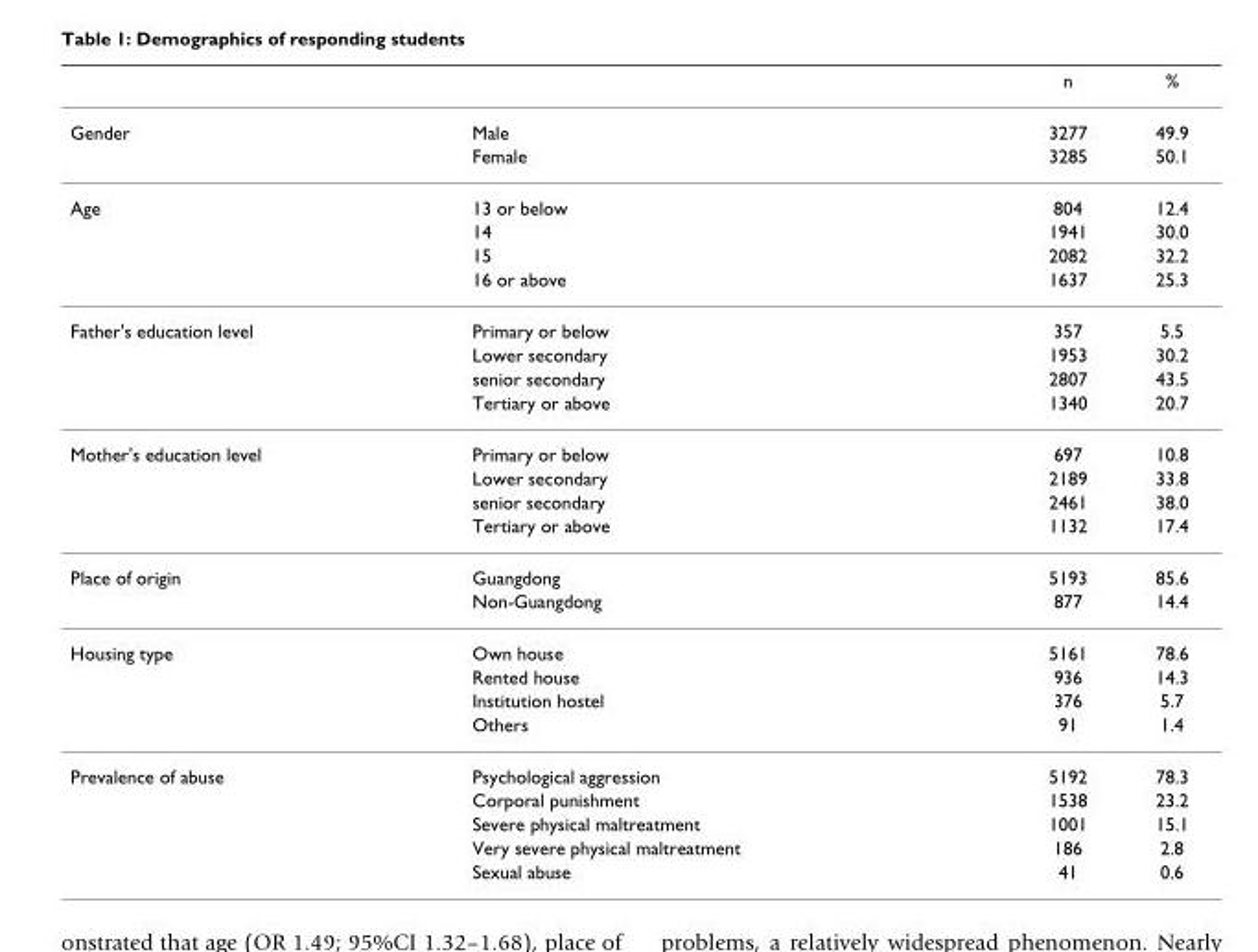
<table><thead><tr><td></td><td></td><td>n</td><td>%</td></tr></thead><tbody><tr><td rowspan="2">Gender</td><td>Male</td><td>3277</td><td>49.9</td></tr><tr><td>Female</td><td>3285</td><td>50.1</td></tr><tr><td rowspan="4">Age</td><td>13 or below</td><td>804</td><td>12.4</td></tr><tr><td>14</td><td>1941</td><td>30.0</td></tr><tr><td>15</td><td>2082</td><td>32.2</td></tr><tr><td>16 or above</td><td>1637</td><td>25.3</td></tr><tr><td rowspan="4">Father&#x27;s education level</td><td>Primary or below</td><td>357</td><td>5.5</td></tr><tr><td>Lower secondary</td><td>1953</td><td>30.2</td></tr><tr><td>senior secondary</td><td>2807</td><td>43.5</td></tr><tr><td>Tertiary or above</td><td>1340</td><td>20.7</td></tr><tr><td rowspan="4">Mother&#x27;s education level</td><td>Primary or below</td><td>697</td><td>10.8</td></tr><tr><td>Lower secondary</td><td>2189</td><td>33.8</td></tr><tr><td>senior secondary</td><td>2461</td><td>38.0</td></tr><tr><td>Tertiary or above</td><td>1132</td><td>17.4</td></tr><tr><td rowspan="2">Place of origin</td><td>Guangdong</td><td>5193</td><td>85.6</td></tr><tr><td>Non-Guangdong</td><td>877</td><td>14.4</td></tr><tr><td rowspan="4">Housing type</td><td>Own house</td><td>5161</td><td>78.6</td></tr><tr><td>Rented house</td><td>936</td><td>14.3</td></tr><tr><td>Institution hostel</td><td>376</td><td>5.7</td></tr><tr><td>Others</td><td>91</td><td>1.4</td></tr><tr><td rowspan="5">Prevalence of abuse</td><td>Psychological aggression</td><td>5192</td><td>78.3</td></tr><tr><td>Corporal punishment</td><td>1538</td><td>23.2</td></tr><tr><td>Severe physical maltreatment</td><td>1001</td><td>15.1</td></tr><tr><td>Very severe physical maltreatment</td><td>186</td><td>2.8</td></tr><tr><td>Sexual abuse</td><td>41</td><td>0.6</td></tr></tbody></table>